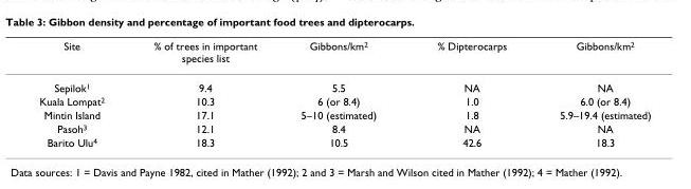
<table><thead><tr><td>Site</td><td>% of trees in important species list</td><td>Gibbons/km2</td><td>% Dipterocarps</td><td>Gibbons/km2</td></tr></thead><tbody><tr><td>Sepilok1</td><td>9.4</td><td>5.5</td><td>NA</td><td>NA</td></tr><tr><td>Kuala Lompat2</td><td>10.3</td><td>6 (or 8.4)</td><td>1.0</td><td>6.0 (or 8.4)</td></tr><tr><td>Mintin Island</td><td>17.1</td><td>5–10 (estimated)</td><td>1.8</td><td>5.9–19.4 (estimated)</td></tr><tr><td>Pasoh3</td><td>12.1</td><td>8.4</td><td>NA</td><td>NA</td></tr><tr><td>Barito Ulu4</td><td>18.3</td><td>10.5</td><td>42.6</td><td>18.3</td></tr></tbody></table>